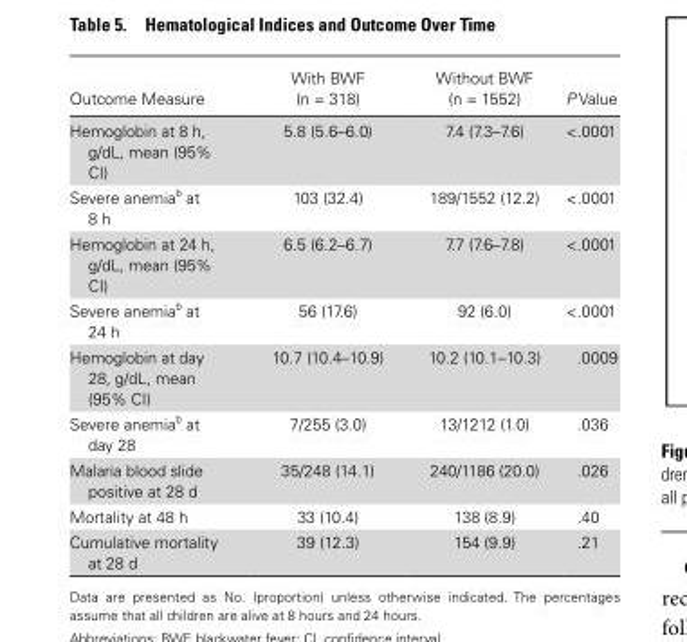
<table><thead><tr><td>Outcome Measure</td><td>With BWF (n = 318)</td><td>Without BWF (n = 1552)</td><td>P Value</td></tr></thead><tbody><tr><td>Hemoglobin at 8 h, g/dL, mean (95% CI)</td><td>5.8 (5.6–6.0)</td><td>7.4 (7.3–7.6)</td><td>&lt;.0001</td></tr><tr><td>Severe anemia<sup>b</sup> at 8 h</td><td>103 (32.4)</td><td>189/1552 (12.2)</td><td>&lt;.0001</td></tr><tr><td>Hemoglobin at 24 h, g/dL, mean (95% CI)</td><td>6.5 (6.2–6.7)</td><td>7.7 (7.6–7.8)</td><td>&lt;.0001</td></tr><tr><td>Severe anemia<sup>b</sup> at 24 h</td><td>56 (17.6)</td><td>92 (6.0)</td><td>&lt;.0001</td></tr><tr><td>Hemoglobin at day 28, g/dL, mean (95% CI)</td><td>10.7 (10.4–10.9)</td><td>10.2 (10.1–10.3)</td><td>.0009</td></tr><tr><td>Severe anemia<sup>b</sup> at day 28</td><td>7/255 (3.0)</td><td>13/1212 (1.0)</td><td>.036</td></tr><tr><td>Malaria blood slide positive at 28 d</td><td>35/248 (14.1)</td><td>240/1186 (20.0)</td><td>.026</td></tr><tr><td>Mortality at 48 h</td><td>33 (10.4)</td><td>138 (8.9)</td><td>.40</td></tr><tr><td>Cumulative mortality at 28 d</td><td>39 (12.3)</td><td>154 (9.9)</td><td>.21</td></tr></tbody></table>